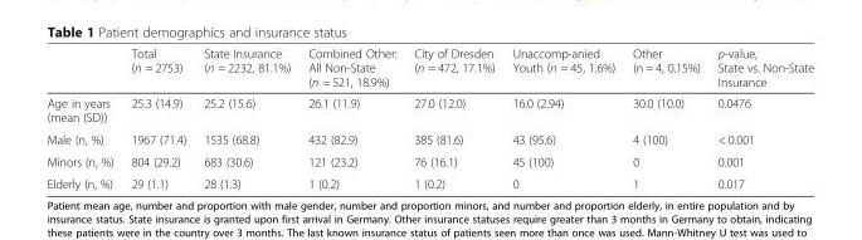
<table><thead><tr><td></td><td>Total (n = 2753)</td><td>State Insurance (n = 2232, 81.1%)</td><td>Combined Other: All Non-State (n = 521, 18.9%)</td><td>City of Dresden (n = 472, 17.1%)</td><td>Unaccomp-anied Youth (n = 45, 1.6%)</td><td>Other (n = 4, 0.15%)</td><td>p-value, State vs. Non-State Insurance</td></tr></thead><tbody><tr><td>Age in years (mean (SD))</td><td>25.3 (14.9)</td><td>25.2 (15.6)</td><td>26.1 (11.9)</td><td>27.0 (12.0)</td><td>16.0 (2.94)</td><td>30.0 (10.0)</td><td>0.0476</td></tr><tr><td>Male (n, %)</td><td>1967 (71.4)</td><td>1535 (68.8)</td><td>432 (82.9)</td><td>385 (81.6)</td><td>43 (95.6)</td><td>4 (100)</td><td>&lt; 0.001</td></tr><tr><td>Minors (n, %)</td><td>804 (29.2)</td><td>683 (30.6)</td><td>121 (23.2)</td><td>76 (16.1)</td><td>45 (100)</td><td>0</td><td>0.001</td></tr><tr><td>Elderly (n, %)</td><td>29 (1.1)</td><td>28 (1.3)</td><td>1 (0.2)</td><td>1 (0.2)</td><td>0</td><td>1</td><td>0.017</td></tr></tbody></table>